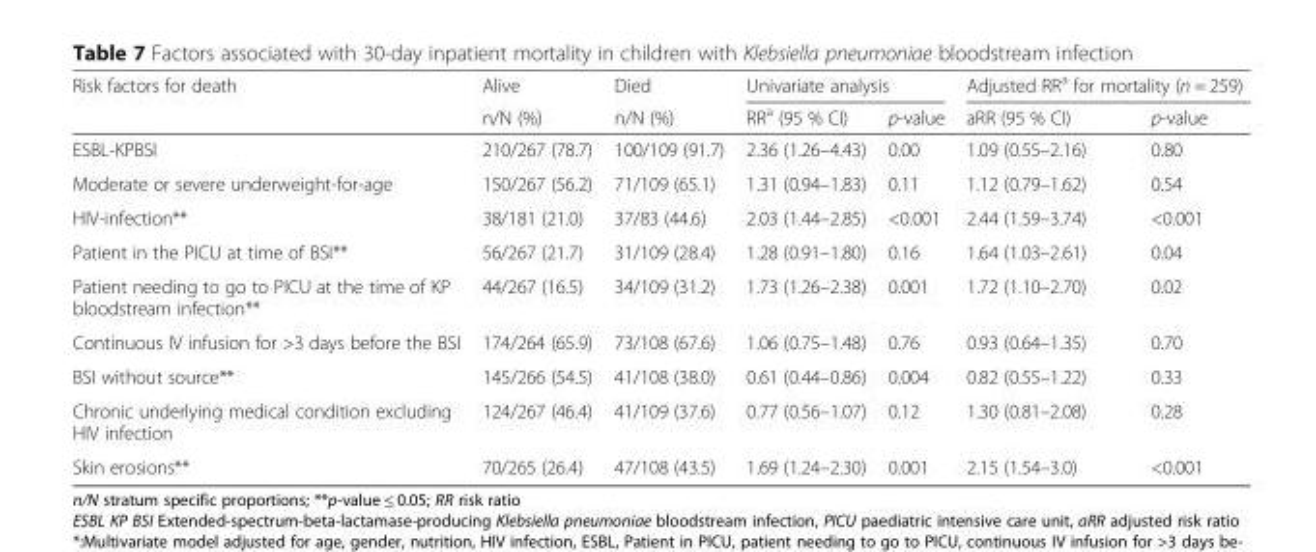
<table><thead><tr><td rowspan="2">Risk factors for death</td><td rowspan="2">Alive n/N (%)</td><td rowspan="2">Died n/N (%)</td><td colspan="2">Univariate analysis</td><td colspan="2">Adjusted RR<sup>a</sup> for mortality (n = 259)</td></tr><tr><td>RR<sup>a</sup> (95 % CI)</td><td>p-value</td><td>aRR (95 % CI)</td><td>p-value</td></tr></thead><tbody><tr><td>ESBL-KPBSI</td><td>210/267 (78.7)</td><td>100/109 (91.7)</td><td>2.36 (1.26–4.43)</td><td>0.00</td><td>1.09 (0.55–2.16)</td><td>0.80</td></tr><tr><td>Moderate or severe underweight-for-age</td><td>150/267 (56.2)</td><td>71/109 (65.1)</td><td>1.31 (0.94–1.83)</td><td>0.11</td><td>1.12 (0.79–1.62)</td><td>0.54</td></tr><tr><td>HIV-infection**</td><td>38/181 (21.0)</td><td>37/83 (44.6)</td><td>2.03 (1.44–2.85)</td><td>&lt;0.001</td><td>2.44 (1.59–3.74)</td><td>&lt;0.001</td></tr><tr><td>Patient in the PICU at time of BSI**</td><td>56/267 (21.7)</td><td>31/109 (28.4)</td><td>1.28 (0.91–1.80)</td><td>0.16</td><td>1.64 (1.03–2.61)</td><td>0.04</td></tr><tr><td>Patient needing to go to PICU at the time of KP bloodstream infection**</td><td>44/267 (16.5)</td><td>34/109 (31.2)</td><td>1.73 (1.26–2.38)</td><td>0.001</td><td>1.72 (1.10–2.70)</td><td>0.02</td></tr><tr><td>Continuous IV infusion for &gt;3 days before the BSI</td><td>174/264 (65.9)</td><td>73/108 (67.6)</td><td>1.06 (0.75–1.48)</td><td>0.76</td><td>0.93 (0.64–1.35)</td><td>0.70</td></tr><tr><td>BSI without source**</td><td>145/266 (54.5)</td><td>41/108 (38.0)</td><td>0.61 (0.44–0.86)</td><td>0.004</td><td>0.82 (0.55–1.22)</td><td>0.33</td></tr><tr><td>Chronic underlying medical condition excluding HIV infection</td><td>124/267 (46.4)</td><td>41/109 (37.6)</td><td>0.77 (0.56–1.07)</td><td>0.12</td><td>1.30 (0.81–2.08)</td><td>0.28</td></tr><tr><td>Skin erosions**</td><td>70/265 (26.4)</td><td>47/108 (43.5)</td><td>1.69 (1.24–2.30)</td><td>0.001</td><td>2.15 (1.54–3.0)</td><td>&lt;0.001</td></tr></tbody></table>